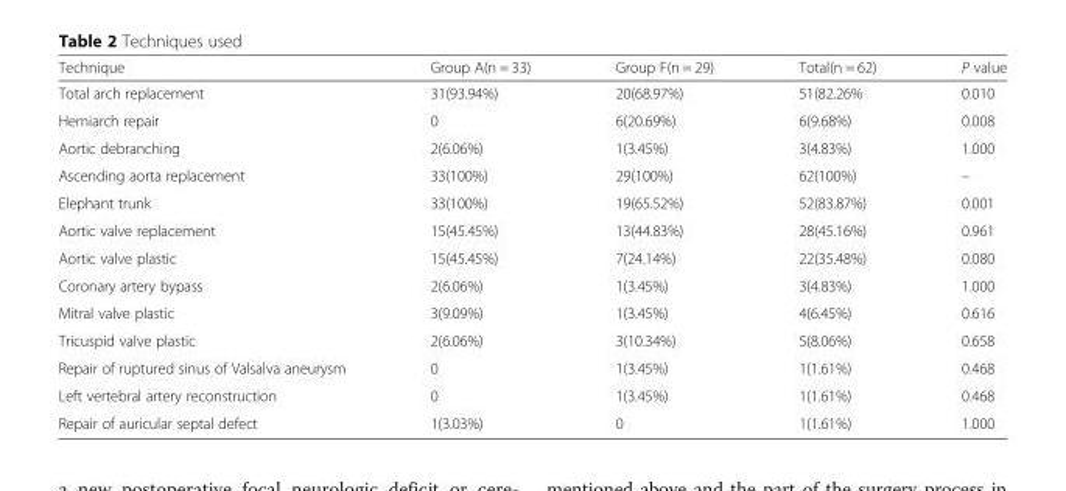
<table><thead><tr><td>Technique</td><td>Group A(n = 33)</td><td>Group F(n = 29)</td><td>Total(n = 62)</td><td>P value</td></tr></thead><tbody><tr><td>Total arch replacement</td><td>31(93.94%)</td><td>20(68.97%)</td><td>51(82.26%</td><td>0.010</td></tr><tr><td>Hemiarch repair</td><td>0</td><td>6(20.69%)</td><td>6(9.68%)</td><td>0.008</td></tr><tr><td>Aortic debranching</td><td>2(6.06%)</td><td>1(3.45%)</td><td>3(4.83%)</td><td>1.000</td></tr><tr><td>Ascending aorta replacement</td><td>33(100%)</td><td>29(100%)</td><td>62(100%)</td><td>–</td></tr><tr><td>Elephant trunk</td><td>33(100%)</td><td>19(65.52%)</td><td>52(83.87%)</td><td>0.001</td></tr><tr><td>Aortic valve replacement</td><td>15(45.45%)</td><td>13(44.83%)</td><td>28(45.16%)</td><td>0.961</td></tr><tr><td>Aortic valve plastic</td><td>15(45.45%)</td><td>7(24.14%)</td><td>22(35.48%)</td><td>0.080</td></tr><tr><td>Coronary artery bypass</td><td>2(6.06%)</td><td>1(3.45%)</td><td>3(4.83%)</td><td>1.000</td></tr><tr><td>Mitral valve plastic</td><td>3(9.09%)</td><td>1(3.45%)</td><td>4(6.45%)</td><td>0.616</td></tr><tr><td>Tricuspid valve plastic</td><td>2(6.06%)</td><td>3(10.34%)</td><td>5(8.06%)</td><td>0.658</td></tr><tr><td>Repair of ruptured sinus of Valsalva aneurysm</td><td>0</td><td>1(3.45%)</td><td>1(1.61%)</td><td>0.468</td></tr><tr><td>Left vertebral artery reconstruction</td><td>0</td><td>1(3.45%)</td><td>1(1.61%)</td><td>0.468</td></tr><tr><td>Repair of auricular septal defect</td><td>1(3.03%)</td><td>0</td><td>1(1.61%)</td><td>1.000</td></tr></tbody></table>